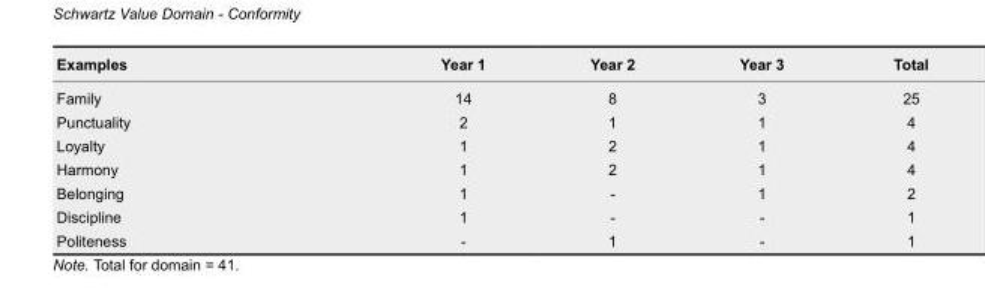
<table><thead><tr><td>Examples</td><td>Year 1</td><td>Year 2</td><td>Year 3</td><td>Total</td></tr></thead><tbody><tr><td>Family</td><td>14</td><td>8</td><td>3</td><td>25</td></tr><tr><td>Punctuality</td><td>2</td><td>1</td><td>1</td><td>4</td></tr><tr><td>Loyalty</td><td>1</td><td>2</td><td>1</td><td>4</td></tr><tr><td>Harmony</td><td>1</td><td>2</td><td>1</td><td>4</td></tr><tr><td>Belonging</td><td>1</td><td>-</td><td>1</td><td>2</td></tr><tr><td>Discipline</td><td>1</td><td>-</td><td>-</td><td>1</td></tr><tr><td>Politeness</td><td>-</td><td>1</td><td>-</td><td>1</td></tr></tbody></table>